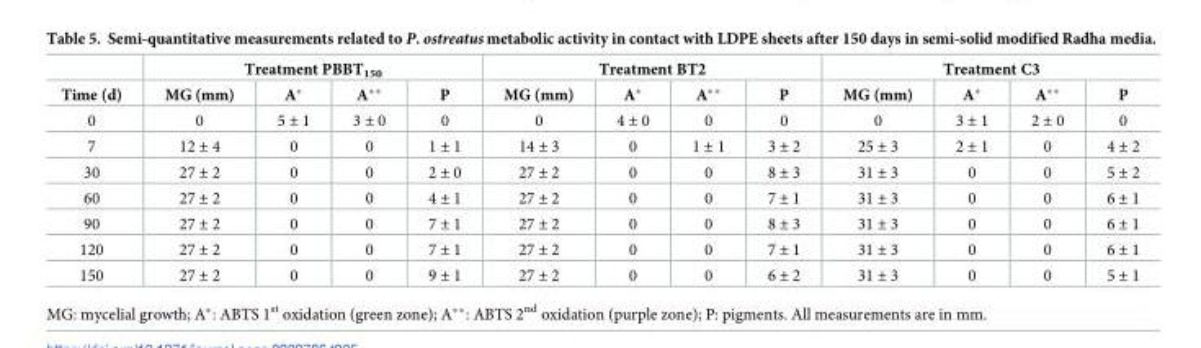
<table><thead><tr><td rowspan="2">Time (d)</td><td colspan="4">Treatment PBBT<sub>150</sub></td><td colspan="4">Treatment BT2</td><td colspan="4">Treatment C3</td></tr><tr><td>MG (mm)</td><td>A*</td><td>A**</td><td>P</td><td>MG (mm)</td><td>A*</td><td>A**</td><td>P</td><td>MG (mm)</td><td>A*</td><td>A**</td><td>P</td></tr></thead><tbody><tr><td>0</td><td>0</td><td>5 ± 1</td><td>3 ± 0</td><td>0</td><td>0</td><td>4 ± 0</td><td>0</td><td>0</td><td>0</td><td>3 ± 1</td><td>2 ± 0</td><td>0</td></tr><tr><td>7</td><td>12 ± 4</td><td>0</td><td>0</td><td>1 ± 1</td><td>14 ± 3</td><td>0</td><td>1 ± 1</td><td>3 ± 2</td><td>25 ± 3</td><td>2 ± 1</td><td>0</td><td>4 ± 2</td></tr><tr><td>30</td><td>27 ± 2</td><td>0</td><td>0</td><td>2 ± 0</td><td>27 ± 2</td><td>0</td><td>0</td><td>8 ± 3</td><td>31 ± 3</td><td>0</td><td>0</td><td>5 ± 2</td></tr><tr><td>60</td><td>27 ± 2</td><td>0</td><td>0</td><td>4 ± 1</td><td>27 ± 2</td><td>0</td><td>0</td><td>7 ± 1</td><td>31 ± 3</td><td>0</td><td>0</td><td>6 ± 1</td></tr><tr><td>90</td><td>27 ± 2</td><td>0</td><td>0</td><td>7 ± 1</td><td>27 ± 2</td><td>0</td><td>0</td><td>8 ± 3</td><td>31 ± 3</td><td>0</td><td>0</td><td>6 ± 1</td></tr><tr><td>120</td><td>27 ± 2</td><td>0</td><td>0</td><td>7 ± 1</td><td>27 ± 2</td><td>0</td><td>0</td><td>7 ± 1</td><td>31 ± 3</td><td>0</td><td>0</td><td>6 ± 1</td></tr><tr><td>150</td><td>27 ± 2</td><td>0</td><td>0</td><td>9 ± 1</td><td>27 ± 2</td><td>0</td><td>0</td><td>6 ± 2</td><td>31 ± 3</td><td>0</td><td>0</td><td>5 ± 1</td></tr></tbody></table>